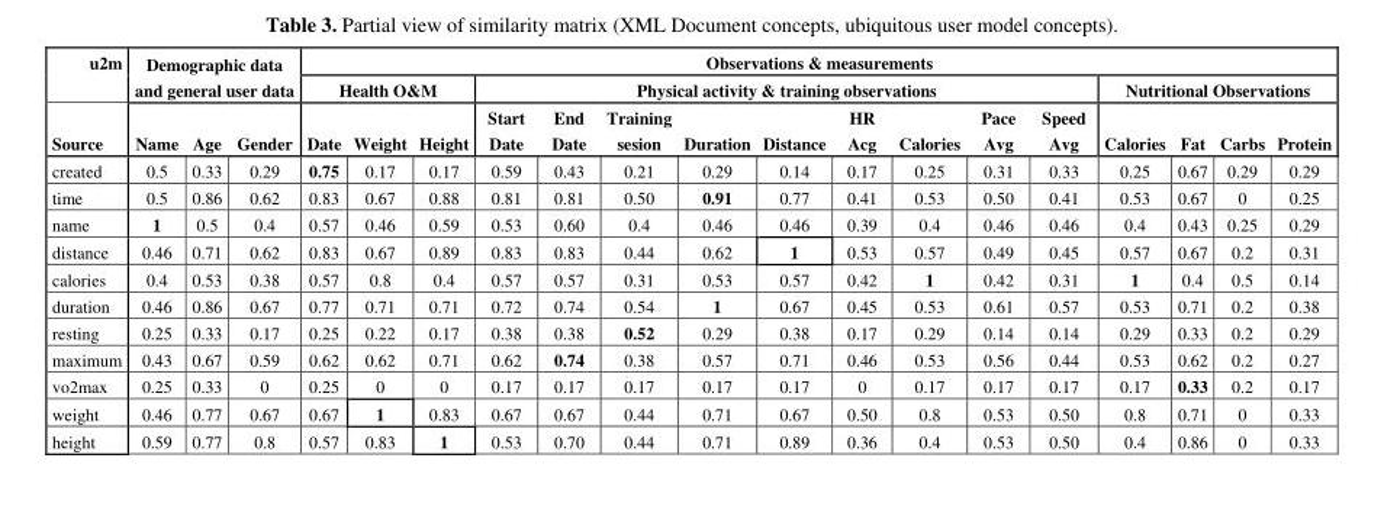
<table><thead><tr><td rowspan="3">u2m Source</td><td rowspan="2" colspan="3">Demographic data and general user data</td><td colspan="16">Observations &amp; measurements</td></tr><tr><td colspan="3">Health O&amp;M</td><td colspan="9">Physical activity &amp; training observations</td><td colspan="4">Nutritional Observations</td></tr><tr><td>Name</td><td>Age</td><td>Gender</td><td>Date</td><td>Weight</td><td>Height</td><td>Start Date</td><td>End Date</td><td>Training sesion</td><td>Duration</td><td>Distance</td><td>HR Acg</td><td>Calories</td><td>Pace Avg</td><td>Speed Avg</td><td>Calories</td><td>Fat</td><td>Carbs</td><td>Protein</td></tr></thead><tbody><tr><td>created</td><td>0.5</td><td>0.33</td><td>0.29</td><td>0.75</td><td>0.17</td><td>0.17</td><td>0.59</td><td>0.43</td><td>0.21</td><td>0.29</td><td>0.14</td><td>0.17</td><td>0.25</td><td>0.31</td><td>0.33</td><td>0.25</td><td>0.67</td><td>0.29</td><td>0.29</td></tr><tr><td>time</td><td>0.5</td><td>0.86</td><td>0.62</td><td>0.83</td><td>0.67</td><td>0.88</td><td>0.81</td><td>0.81</td><td>0.50</td><td>0.91</td><td>0.77</td><td>0.41</td><td>0.53</td><td>0.50</td><td>0.41</td><td>0.53</td><td>0.67</td><td>0</td><td>0.25</td></tr><tr><td>name</td><td>1</td><td>0.5</td><td>0.4</td><td>0.57</td><td>0.46</td><td>0.59</td><td>0.53</td><td>0.60</td><td>0.4</td><td>0.46</td><td>0.46</td><td>0.39</td><td>0.4</td><td>0.46</td><td>0.46</td><td>0.4</td><td>0.43</td><td>0.25</td><td>0.29</td></tr><tr><td>distance</td><td>0.46</td><td>0.71</td><td>0.62</td><td>0.83</td><td>0.67</td><td>0.89</td><td>0.83</td><td>0.83</td><td>0.44</td><td>0.62</td><td>1</td><td>0.53</td><td>0.57</td><td>0.49</td><td>0.45</td><td>0.57</td><td>0.67</td><td>0.2</td><td>0.31</td></tr><tr><td>calories</td><td>0.4</td><td>0.53</td><td>0.38</td><td>0.57</td><td>0.8</td><td>0.4</td><td>0.57</td><td>0.57</td><td>0.31</td><td>0.53</td><td>0.57</td><td>0.42</td><td>1</td><td>0.42</td><td>0.31</td><td>1</td><td>0.4</td><td>0.5</td><td>0.14</td></tr><tr><td>duration</td><td>0.46</td><td>0.86</td><td>0.67</td><td>0.77</td><td>0.71</td><td>0.71</td><td>0.72</td><td>0.74</td><td>0.54</td><td>1</td><td>0.67</td><td>0.45</td><td>0.53</td><td>0.61</td><td>0.57</td><td>0.53</td><td>0.71</td><td>0.2</td><td>0.38</td></tr><tr><td>resting</td><td>0.25</td><td>0.33</td><td>0.17</td><td>0.25</td><td>0.22</td><td>0.17</td><td>0.38</td><td>0.38</td><td>0.52</td><td>0.29</td><td>0.38</td><td>0.17</td><td>0.29</td><td>0.14</td><td>0.14</td><td>0.29</td><td>0.33</td><td>0.2</td><td>0.29</td></tr><tr><td>maximum</td><td>0.43</td><td>0.67</td><td>0.59</td><td>0.62</td><td>0.62</td><td>0.71</td><td>0.62</td><td>0.74</td><td>0.38</td><td>0.57</td><td>0.71</td><td>0.46</td><td>0.53</td><td>0.56</td><td>0.44</td><td>0.53</td><td>0.62</td><td>0.2</td><td>0.27</td></tr><tr><td>vo2max</td><td>0.25</td><td>0.33</td><td>0</td><td>0.25</td><td>0</td><td>0</td><td>0.17</td><td>0.17</td><td>0.17</td><td>0.17</td><td>0.17</td><td>0</td><td>0.17</td><td>0.17</td><td>0.17</td><td>0.17</td><td>0.33</td><td>0.2</td><td>0.17</td></tr><tr><td>weight</td><td>0.46</td><td>0.77</td><td>0.67</td><td>0.67</td><td>1</td><td>0.83</td><td>0.67</td><td>0.67</td><td>0.44</td><td>0.71</td><td>0.67</td><td>0.50</td><td>0.8</td><td>0.53</td><td>0.50</td><td>0.8</td><td>0.71</td><td>0</td><td>0.33</td></tr><tr><td>height</td><td>0.59</td><td>0.77</td><td>0.8</td><td>0.57</td><td>0.83</td><td>1</td><td>0.53</td><td>0.70</td><td>0.44</td><td>0.71</td><td>0.89</td><td>0.36</td><td>0.4</td><td>0.53</td><td>0.50</td><td>0.4</td><td>0.86</td><td>0</td><td>0.33</td></tr></tbody></table>